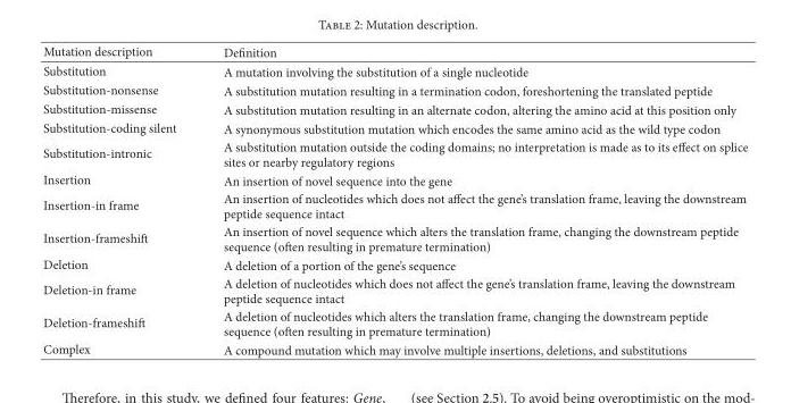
<table><thead><tr><td>Mutation description</td><td>Definition</td></tr></thead><tbody><tr><td>Substitution</td><td>A mutation involving the substitution of a single nucleotide</td></tr><tr><td>Substitution-nonsense</td><td>A substitution mutation resulting in a termination codon, foreshortening the translated peptide</td></tr><tr><td>Substitution-missense</td><td>A substitution mutation resulting in an alternate codon, altering the amino acid at this position only</td></tr><tr><td>Substitution-coding silent</td><td>A synonymous substitution mutation which encodes the same amino acid as the wild type codon</td></tr><tr><td>Substitution-intronic</td><td>A substitution mutation outside the coding domains; no interpretation is made as to its effect on splice sites or nearby regulatory regions</td></tr><tr><td>Insertion</td><td>An insertion of novel sequence into the gene</td></tr><tr><td>Insertion-in frame</td><td>An insertion of nucleotides which does not affect the gene’s translation frame, leaving the downstream peptide sequence intact</td></tr><tr><td>Insertion-frameshift</td><td>An insertion of novel sequence which alters the translation frame, changing the downstream peptide sequence (often resulting in premature termination)</td></tr><tr><td>Deletion</td><td>A deletion of a portion of the gene’s sequence</td></tr><tr><td>Deletion-in frame</td><td>A deletion of nucleotides which does not affect the gene’s translation frame, leaving the downstream peptide sequence intact</td></tr><tr><td>Deletion-frameshift</td><td>A deletion of nucleotides which alters the translation frame, changing the downstream peptide sequence (often resulting in premature termination)</td></tr><tr><td>Complex</td><td>A compound mutation which may involve multiple insertions, deletions, and substitutions</td></tr></tbody></table>